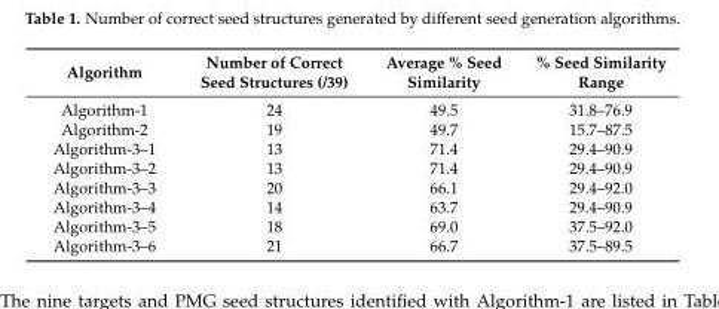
<table><thead><tr><td>Algorithm</td><td>Number of Correct Seed Structures (/39)</td><td>Average % Seed Similarity</td><td>% Seed Similarity Range</td></tr></thead><tbody><tr><td>Algorithm-1</td><td>24</td><td>49.5</td><td>31.8–76.9</td></tr><tr><td>Algorithm-2</td><td>19</td><td>49.7</td><td>15.7–87.5</td></tr><tr><td>Algorithm-3–1</td><td>13</td><td>71.4</td><td>29.4–90.9</td></tr><tr><td>Algorithm-3–2</td><td>13</td><td>71.4</td><td>29.4–90.9</td></tr><tr><td>Algorithm-3–3</td><td>20</td><td>66.1</td><td>29.4–92.0</td></tr><tr><td>Algorithm-3–4</td><td>14</td><td>63.7</td><td>29.4–90.9</td></tr><tr><td>Algorithm-3–5</td><td>18</td><td>69.0</td><td>37.5–92.0</td></tr><tr><td>Algorithm-3–6</td><td>21</td><td>66.7</td><td>37.5–89.5</td></tr></tbody></table>